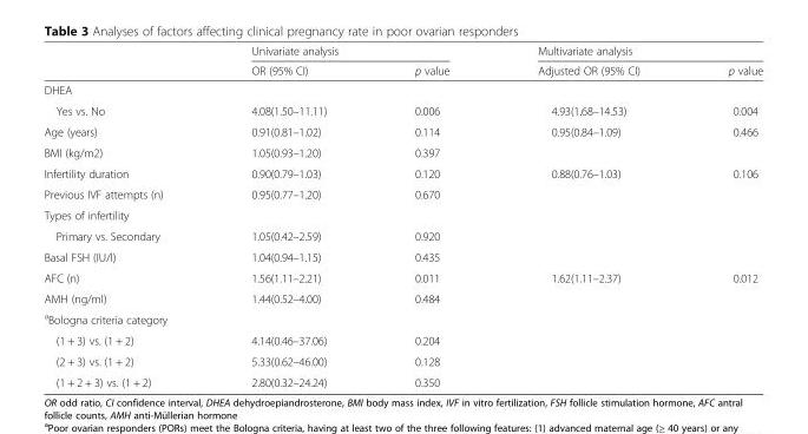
<table><thead><tr><td rowspan="2"></td><td colspan="2">Univariate analysis</td><td colspan="2">Multivariate analysis</td></tr><tr><td>OR (95% CI)</td><td>p value</td><td>Adjusted OR (95% CI)</td><td>p value</td></tr></thead><tbody><tr><td colspan="5">DHEA</td></tr><tr><td>Yes vs. No</td><td>4.08(1.50–11.11)</td><td>0.006</td><td>4.93(1.68–14.53)</td><td>0.004</td></tr><tr><td>Age (years)</td><td>0.91(0.81–1.02)</td><td>0.114</td><td>0.95(0.84–1.09)</td><td>0.466</td></tr><tr><td>BMI (kg/m2)</td><td>1.05(0.93–1.20)</td><td>0.397</td><td></td><td></td></tr><tr><td>Infertility duration</td><td>0.90(0.79–1.03)</td><td>0.120</td><td>0.88(0.76–1.03)</td><td>0.106</td></tr><tr><td>Previous IVF attempts (n)</td><td>0.95(0.77–1.20)</td><td>0.670</td><td></td><td></td></tr><tr><td colspan="5">Types of infertility</td></tr><tr><td>Primary vs. Secondary</td><td>1.05(0.42–2.59)</td><td>0.920</td><td></td><td></td></tr><tr><td>Basal FSH (IU/l)</td><td>1.04(0.94–1.15)</td><td>0.435</td><td></td><td></td></tr><tr><td>AFC (n)</td><td>1.56(1.11–2.21)</td><td>0.011</td><td>1.62(1.11–2.37)</td><td>0.012</td></tr><tr><td>AMH (ng/ml)</td><td>1.44(0.52–4.00)</td><td>0.484</td><td></td><td></td></tr><tr><td colspan="5"><sup>a</sup>Bologna criteria category</td></tr><tr><td>(1 + 3) vs. (1 + 2)</td><td>4.14(0.46–37.06)</td><td>0.204</td><td></td><td></td></tr><tr><td>(2 + 3) vs. (1 + 2)</td><td>5.33(0.62–46.00)</td><td>0.128</td><td></td><td></td></tr><tr><td>(1 + 2 + 3) vs. (1 + 2)</td><td>2.80(0.32–24.24)</td><td>0.350</td><td></td><td></td></tr></tbody></table>